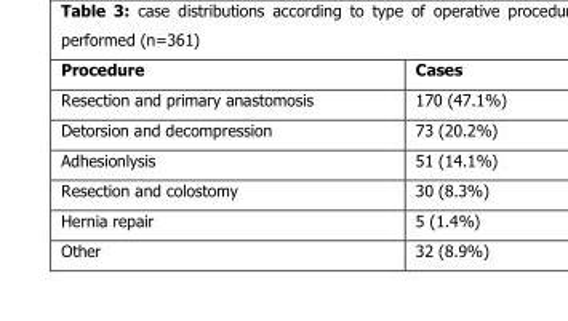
<table><thead><tr><td>Procedure</td><td>Cases</td></tr></thead><tbody><tr><td>Resection and primary anastomosis</td><td>170 (47.1%)</td></tr><tr><td>Detorsion and decompression</td><td>73 (20.2%)</td></tr><tr><td>Adhesionlysis</td><td>51 (14.1%)</td></tr><tr><td>Resection and colostomy</td><td>30 (8.3%)</td></tr><tr><td>Hernia repair</td><td>5 (1.4%)</td></tr><tr><td>Other</td><td>32 (8.9%)</td></tr></tbody></table>